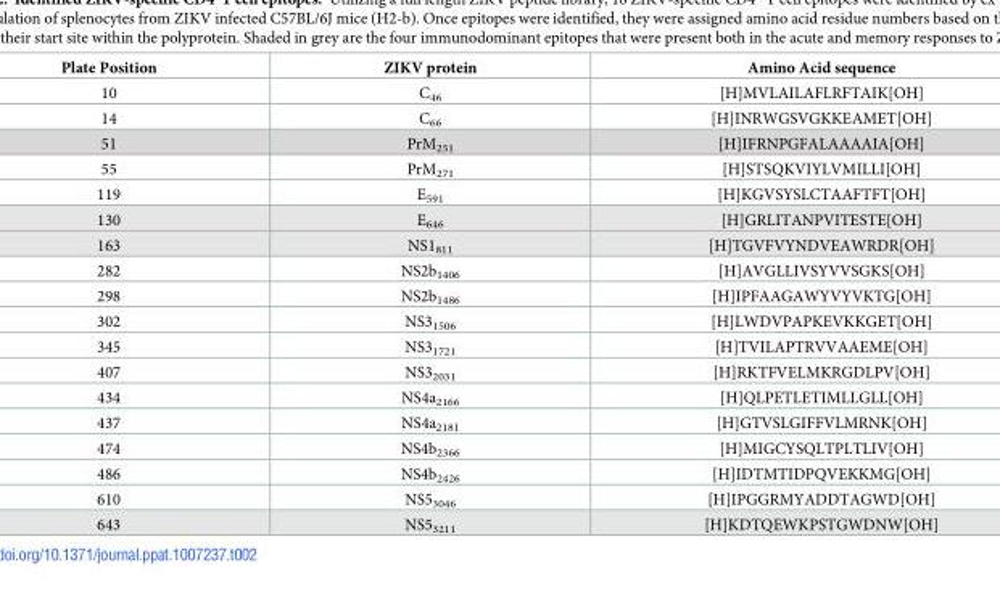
<table><thead><tr><td>Plate Position</td><td>ZIKV protein</td><td>Amino Acid sequence</td></tr></thead><tbody><tr><td>10</td><td>C<sub>46</sub></td><td>[H]MVLAILAFLRFTAIK[OH]</td></tr><tr><td>14</td><td>C<sub>66</sub></td><td>[H]INRWGSVGKKEAMET[OH]</td></tr><tr><td>51</td><td>PrM<sub>251</sub></td><td>[H]IFRNPGFALAAAAIA[OH]</td></tr><tr><td>55</td><td>PrM<sub>271</sub></td><td>[H]STSQKVIYLVMILLI[OH]</td></tr><tr><td>119</td><td>E<sub>591</sub></td><td>[H]KGVSYSLCTAAFTFT[OH]</td></tr><tr><td>130</td><td>E<sub>646</sub></td><td>[H]GRLITANPVITESTE[OH]</td></tr><tr><td>163</td><td>NS1<sub>811</sub></td><td>[H]TGVFVYNDVEAWRDR[OH]</td></tr><tr><td>282</td><td>NS2b<sub>1406</sub></td><td>[H]AVGLLIVSYVVSGKS[OH]</td></tr><tr><td>298</td><td>NS2b<sub>1486</sub></td><td>[H]IPFAAGAWYVYVKTG[OH]</td></tr><tr><td>302</td><td>NS3<sub>1506</sub></td><td>[H]LWDVPAPKEVKKGET[OH]</td></tr><tr><td>345</td><td>NS3<sub>1721</sub></td><td>[H]TVILAPTRVVAAEME[OH]</td></tr><tr><td>407</td><td>NS3<sub>2031</sub></td><td>[H]RKTFVELMKRGDLPV[OH]</td></tr><tr><td>434</td><td>NS4a<sub>2166</sub></td><td>[H]QLPETLETIMLLGLL[OH]</td></tr><tr><td>437</td><td>NS4a<sub>2181</sub></td><td>[H]GTVSLGIFFVLMRNK[OH]</td></tr><tr><td>474</td><td>NS4b<sub>2366</sub></td><td>[H]MIGCYSQLTPLTLIV[OH]</td></tr><tr><td>486</td><td>NS4b<sub>2426</sub></td><td>[H]IDTMTIDPQVEKKMG[OH]</td></tr><tr><td>610</td><td>NS5<sub>3046</sub></td><td>[H]IPGGRMYADDTAGWD[OH]</td></tr><tr><td>643</td><td>NS5<sub>3211</sub></td><td>[H]KDTQEWKPSTGWDNW[OH]</td></tr></tbody></table>